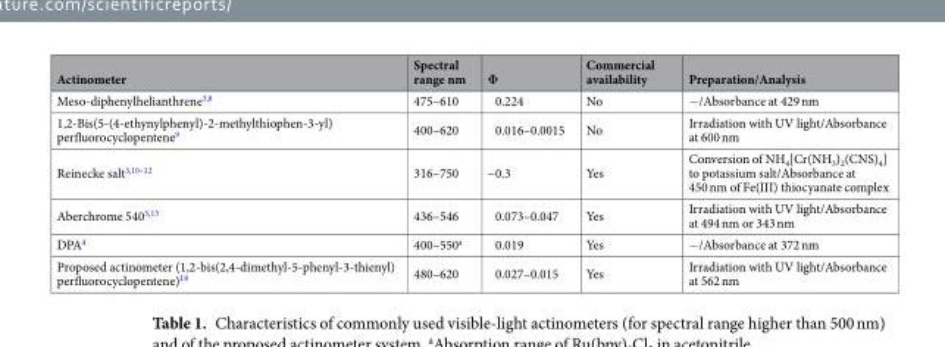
<table><thead><tr><td>Actinometer</td><td>Spectral range nm</td><td>Φ</td><td>Commercial availability</td><td>Preparation/Analysis</td></tr></thead><tbody><tr><td>Meso-diphenylhelianthrene<sup>3,8</sup></td><td>475–610</td><td>0.224</td><td>No</td><td>−/Absorbance at 429 nm</td></tr><tr><td>1,2-Bis(5-(4-ethynylphenyl)-2-methylthiophen-3-yl) perfluorocyclopentene<sup>9</sup></td><td>400–620</td><td>0.016–0.0015</td><td>No</td><td>Irradiation with UV light/Absorbance at 600 nm</td></tr><tr><td>Reinecke salt<sup>3,10–12</sup></td><td>316–750</td><td>~0.3</td><td>Yes</td><td>Conversion of NH<sub>4</sub>[Cr(NH<sub>3</sub>)<sub>2</sub>(CNS)<sub>4</sub>] to potassium salt/Absorbance at 450 nm of Fe(III) thiocyanate complex</td></tr><tr><td>Aberchrome 540<sup>3,13</sup></td><td>436–546</td><td>0.073–0.047</td><td>Yes</td><td>Irradiation with UV light/Absorbance at 494 nm or 343 nm</td></tr><tr><td>DPA<sup>4</sup></td><td>400–550<sup>a</sup></td><td>0.019</td><td>Yes</td><td>−/Absorbance at 372 nm</td></tr><tr><td>Proposed actinometer (1,2-bis(2,4-dimethyl-5-phenyl-3-thienyl) perfluorocyclopentene)<sup>18</sup></td><td>480–620</td><td>0.027–0.015</td><td>Yes</td><td>Irradiation with UV light/Absorbance at 562 nm</td></tr></tbody></table>